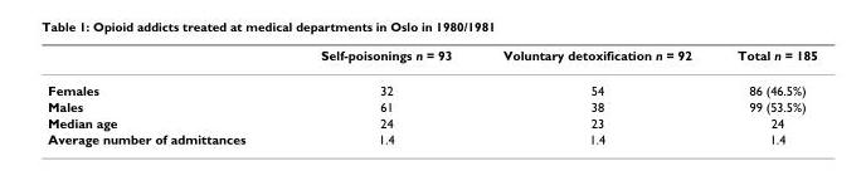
<table><thead><tr><td></td><td>Self-poisonings n = 93</td><td>Voluntary detoxification n = 92</td><td>Total n = 185</td></tr></thead><tbody><tr><td>Females</td><td>32</td><td>54</td><td>86 (46.5%)</td></tr><tr><td>Males</td><td>61</td><td>38</td><td>99 (53.5%)</td></tr><tr><td>Median age</td><td>24</td><td>23</td><td>24</td></tr><tr><td>Average number of admittances</td><td>1.4</td><td>1.4</td><td>1.4</td></tr></tbody></table>